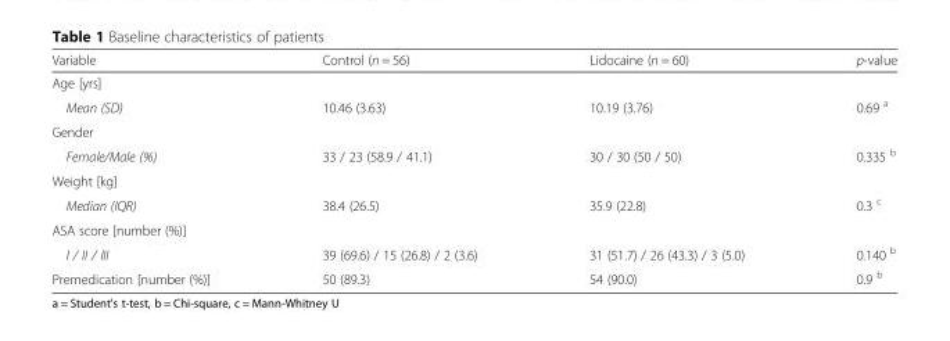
<table><thead><tr><td>Variable</td><td>Control (n = 56)</td><td>Lidocaine (n = 60)</td><td>p-value</td></tr></thead><tbody><tr><td colspan="4">Age [yrs]</td></tr><tr><td>Mean (SD)</td><td>10.46 (3.63)</td><td>10.19 (3.76)</td><td>0.69 <sup>a</sup></td></tr><tr><td colspan="4">Gender</td></tr><tr><td>Female/Male (%)</td><td>33 / 23 (58.9 / 41.1)</td><td>30 / 30 (50 / 50)</td><td>0.335 <sup>b</sup></td></tr><tr><td colspan="4">Weight [kg]</td></tr><tr><td>Median (IQR)</td><td>38.4 (26.5)</td><td>35.9 (22.8)</td><td>0.3 <sup>c</sup></td></tr><tr><td colspan="4">ASA score [number (%)]</td></tr><tr><td>I / II / III</td><td>39 (69.6) / 15 (26.8) / 2 (3.6)</td><td>31 (51.7) / 26 (43.3) / 3 (5.0)</td><td>0.140 <sup>b</sup></td></tr><tr><td>Premedication [number (%)]</td><td>50 (89.3)</td><td>54 (90.0)</td><td>0.9 <sup>b</sup></td></tr></tbody></table>